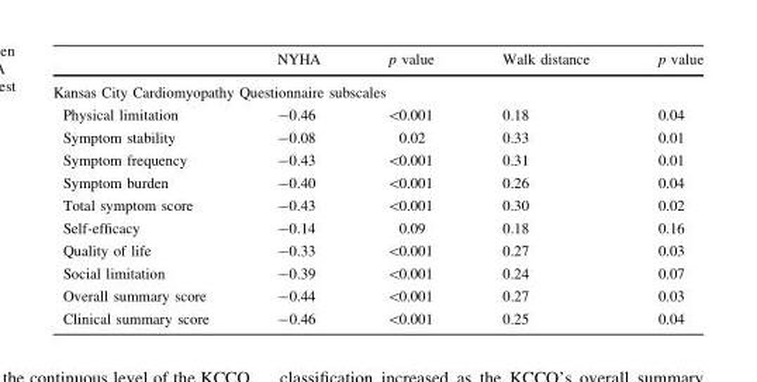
<table><thead><tr><td></td><td>NYHA</td><td>p value</td><td>Walk distance</td><td>p value</td></tr></thead><tbody><tr><td colspan="5">Kansas City Cardiomyopathy Questionnaire subscales</td></tr><tr><td>Physical limitation</td><td>-0.46</td><td>&lt;0.001</td><td>0.18</td><td>0.04</td></tr><tr><td>Symptom stability</td><td>-0.08</td><td>0.02</td><td>0.33</td><td>0.01</td></tr><tr><td>Symptom frequency</td><td>-0.43</td><td>&lt;0.001</td><td>0.31</td><td>0.01</td></tr><tr><td>Symptom burden</td><td>-0.40</td><td>&lt;0.001</td><td>0.26</td><td>0.04</td></tr><tr><td>Total symptom score</td><td>-0.43</td><td>&lt;0.001</td><td>0.30</td><td>0.02</td></tr><tr><td>Self-efficacy</td><td>-0.14</td><td>0.09</td><td>0.18</td><td>0.16</td></tr><tr><td>Quality of life</td><td>-0.33</td><td>&lt;0.001</td><td>0.27</td><td>0.03</td></tr><tr><td>Social limitation</td><td>-0.39</td><td>&lt;0.001</td><td>0.24</td><td>0.07</td></tr><tr><td>Overall summary score</td><td>-0.44</td><td>&lt;0.001</td><td>0.27</td><td>0.03</td></tr><tr><td>Clinical summary score</td><td>-0.46</td><td>&lt;0.001</td><td>0.25</td><td>0.04</td></tr></tbody></table>